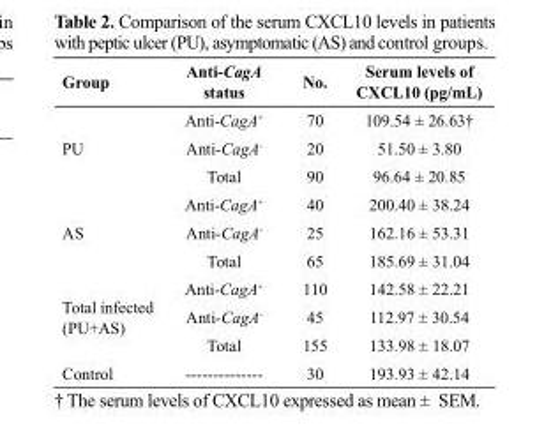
<table><thead><tr><td>Group</td><td>Anti-CagA status</td><td>No.</td><td>Serum levels of CXCL10 (pg/mL)</td></tr></thead><tbody><tr><td rowspan="3">PU</td><td>Anti-CagA<sup>+</sup></td><td>70</td><td>109.54 ± 26.63†</td></tr><tr><td>Anti-CagA<sup>-</sup></td><td>20</td><td>51.50 ± 3.80</td></tr><tr><td>Total</td><td>90</td><td>96.64 ± 20.85</td></tr><tr><td rowspan="3">AS</td><td>Anti-CagA<sup>+</sup></td><td>40</td><td>200.40 ± 38.24</td></tr><tr><td>Anti-CagA<sup>-</sup></td><td>25</td><td>162.16 ± 53.31</td></tr><tr><td>Total</td><td>65</td><td>185.69 ± 31.04</td></tr><tr><td rowspan="3">Total infected (PU+AS)</td><td>Anti-CagA<sup>+</sup></td><td>110</td><td>142.58 ± 22.21</td></tr><tr><td>Anti-CagA<sup>-</sup></td><td>45</td><td>112.97 ± 30.54</td></tr><tr><td>Total</td><td>155</td><td>133.98 ± 18.07</td></tr><tr><td>Control</td><td>--------------</td><td>30</td><td>193.93 ± 42.14</td></tr></tbody></table>